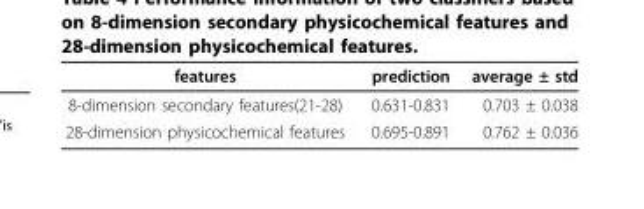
<table><thead><tr><td>features</td><td>prediction</td><td>average ± std</td></tr></thead><tbody><tr><td>8-dimension secondary features(21-28)</td><td>0.631-0.831</td><td>0.703 ± 0.038</td></tr><tr><td>28-dimension physicochemical features</td><td>0.695-0.891</td><td>0.762 ± 0.036</td></tr></tbody></table>